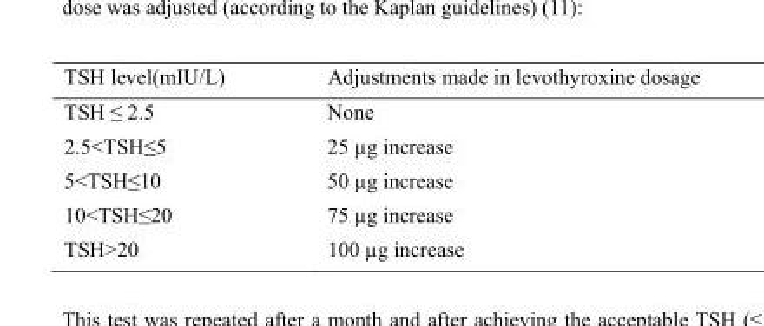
<table><thead><tr><td>TSH level(mIU/L)</td><td>Adjustments made in levothyroxine dosage</td></tr></thead><tbody><tr><td>TSH ≤ 2.5</td><td>None</td></tr><tr><td>2.5&lt;TSH≤5</td><td>25 µg increase</td></tr><tr><td>5&lt;TSH≤10</td><td>50 µg increase</td></tr><tr><td>10&lt;TSH≤20</td><td>75 µg increase</td></tr><tr><td>TSH&gt;20</td><td>100 µg increase</td></tr></tbody></table>